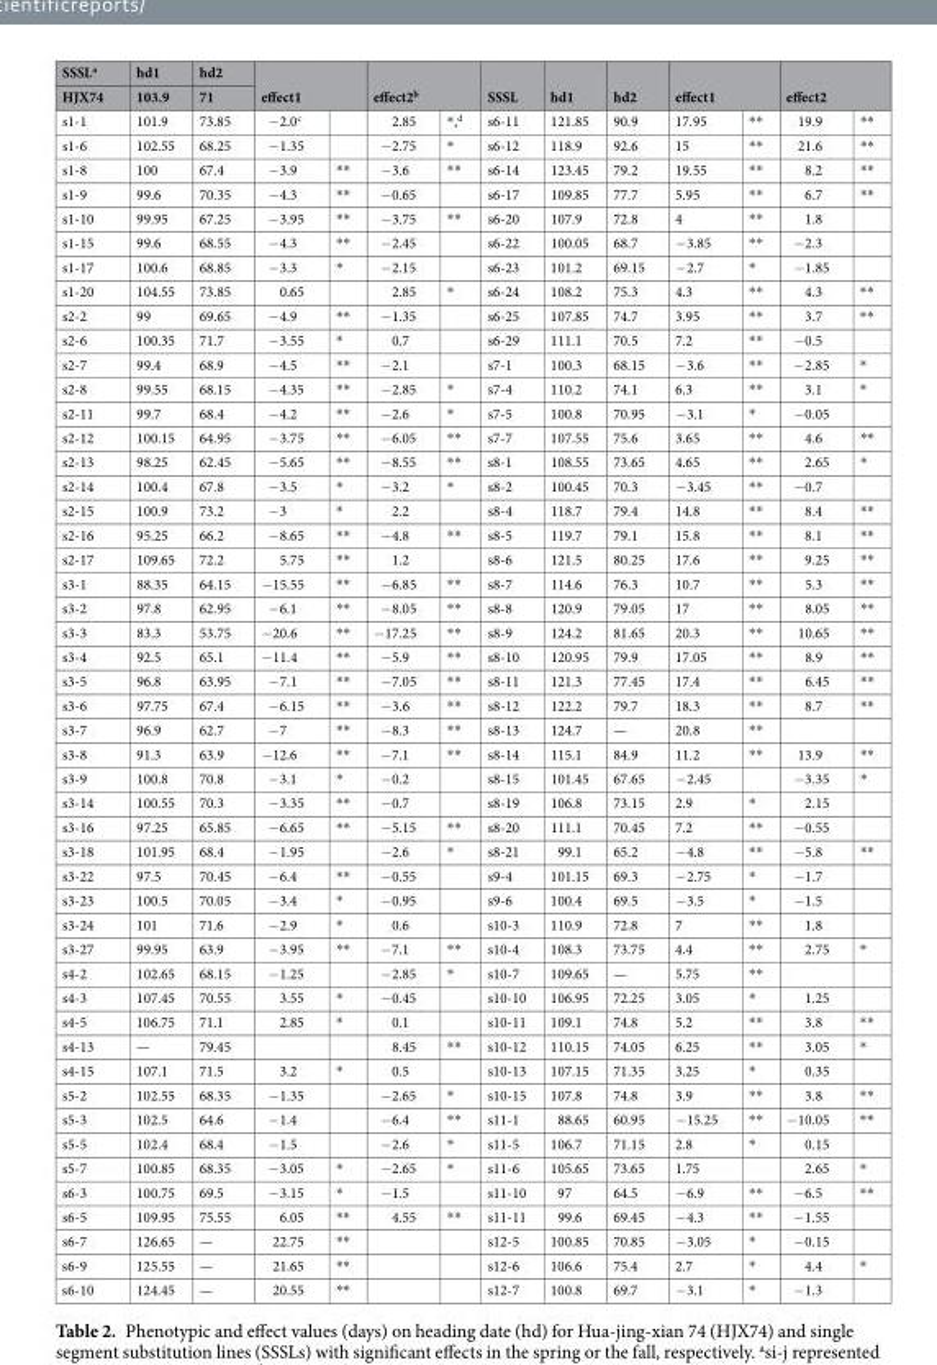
<table><thead><tr><td rowspan="3">SSSL<sup>a</sup> HJX74 s1-1</td><td rowspan="3">hd1 103.9 101.9</td><td rowspan="3">hd2 71 73.85</td><td rowspan="2" colspan="2">effect1</td><td rowspan="2" colspan="2">effect2<sup>b</sup></td><td rowspan="3">SSSL s6-11</td><td rowspan="3">hd1 121.85</td><td rowspan="3">hd2 90.9</td><td rowspan="2" colspan="2">effect1</td><td rowspan="2" colspan="2">effect2</td></tr><tr></tr><tr><td>−2.0<sup>c</sup></td><td></td><td>2.85</td><td>*,<sup>d</sup></td><td>17.95</td><td>**</td><td>19.9</td><td>**</td></tr></thead><tbody><tr><td>s1-6</td><td>102.55</td><td>68.25</td><td>−1.35</td><td></td><td>−2.75</td><td>*</td><td>s6-12</td><td>118.9</td><td>92.6</td><td>15</td><td>**</td><td>21.6</td><td>**</td></tr><tr><td>s1-8</td><td>100</td><td>67.4</td><td>−3.9</td><td>**</td><td>−3.6</td><td>**</td><td>s6-14</td><td>123.45</td><td>79.2</td><td>19.55</td><td>**</td><td>8.2</td><td>**</td></tr><tr><td>s1-9</td><td>99.6</td><td>70.35</td><td>−4.3</td><td>**</td><td>−0.65</td><td></td><td>s6-17</td><td>109.85</td><td>77.7</td><td>5.95</td><td>**</td><td>6.7</td><td>**</td></tr><tr><td>s1-10</td><td>99.95</td><td>67.25</td><td>−3.95</td><td>**</td><td>−3.75</td><td>**</td><td>s6-20</td><td>107.9</td><td>72.8</td><td>4</td><td>**</td><td>1.8</td><td></td></tr><tr><td>s1-15</td><td>99.6</td><td>68.55</td><td>−4.3</td><td>**</td><td>−2.45</td><td></td><td>s6-22</td><td>100.05</td><td>68.7</td><td>−3.85</td><td>**</td><td>−2.3</td><td></td></tr><tr><td>s1-17</td><td>100.6</td><td>68.85</td><td>−3.3</td><td>*</td><td>−2.15</td><td></td><td>s6-23</td><td>101.2</td><td>69.15</td><td>−2.7</td><td>*</td><td>−1.85</td><td></td></tr><tr><td>s1-20</td><td>104.55</td><td>73.85</td><td>0.65</td><td></td><td>2.85</td><td>*</td><td>s6-24</td><td>108.2</td><td>75.3</td><td>4.3</td><td>**</td><td>4.3</td><td>**</td></tr><tr><td>s2-2</td><td>99</td><td>69.65</td><td>−4.9</td><td>**</td><td>−1.35</td><td></td><td>s6-25</td><td>107.85</td><td>74.7</td><td>3.95</td><td>**</td><td>3.7</td><td>**</td></tr><tr><td>s2-6</td><td>100.35</td><td>71.7</td><td>−3.55</td><td>*</td><td>0.7</td><td></td><td>s6-29</td><td>111.1</td><td>70.5</td><td>7.2</td><td>**</td><td>−0.5</td><td></td></tr><tr><td>s2-7</td><td>99.4</td><td>68.9</td><td>−4.5</td><td>**</td><td>−2.1</td><td></td><td>s7-1</td><td>100.3</td><td>68.15</td><td>−3.6</td><td>**</td><td>−2.85</td><td>*</td></tr><tr><td>s2-8</td><td>99.55</td><td>68.15</td><td>−4.35</td><td>**</td><td>−2.85</td><td>*</td><td>s7-4</td><td>110.2</td><td>74.1</td><td>6.3</td><td>**</td><td>3.1</td><td>*</td></tr><tr><td>s2-11</td><td>99.7</td><td>68.4</td><td>−4.2</td><td>**</td><td>−2.6</td><td>*</td><td>s7-5</td><td>100.8</td><td>70.95</td><td>−3.1</td><td>*</td><td>−0.05</td><td></td></tr><tr><td>s2-12</td><td>100.15</td><td>64.95</td><td>−3.75</td><td>**</td><td>−6.05</td><td>**</td><td>s7-7</td><td>107.55</td><td>75.6</td><td>3.65</td><td>**</td><td>4.6</td><td>**</td></tr><tr><td>s2-13</td><td>98.25</td><td>62.45</td><td>−5.65</td><td>**</td><td>−8.55</td><td>**</td><td>s8-1</td><td>108.55</td><td>73.65</td><td>4.65</td><td>**</td><td>2.65</td><td>*</td></tr><tr><td>s2-14</td><td>100.4</td><td>67.8</td><td>−3.5</td><td>*</td><td>−3.2</td><td>*</td><td>s8-2</td><td>100.45</td><td>70.3</td><td>−3.45</td><td>**</td><td>−0.7</td><td></td></tr><tr><td>s2-15</td><td>100.9</td><td>73.2</td><td>−3</td><td>*</td><td>2.2</td><td></td><td>s8-4</td><td>118.7</td><td>79.4</td><td>14.8</td><td>**</td><td>8.4</td><td>**</td></tr><tr><td>s2-16</td><td>95.25</td><td>66.2</td><td>−8.65</td><td>**</td><td>−4.8</td><td>**</td><td>s8-5</td><td>119.7</td><td>79.1</td><td>15.8</td><td>**</td><td>8.1</td><td>**</td></tr><tr><td>s2-17</td><td>109.65</td><td>72.2</td><td>5.75</td><td>**</td><td>1.2</td><td></td><td>s8-6</td><td>121.5</td><td>80.25</td><td>17.6</td><td>**</td><td>9.25</td><td>**</td></tr><tr><td>s3-1</td><td>88.35</td><td>64.15</td><td>−15.55</td><td>**</td><td>−6.85</td><td>**</td><td>s8-7</td><td>114.6</td><td>76.3</td><td>10.7</td><td>**</td><td>5.3</td><td>**</td></tr><tr><td>s3-2</td><td>97.8</td><td>62.95</td><td>−6.1</td><td>**</td><td>−8.05</td><td>**</td><td>s8-8</td><td>120.9</td><td>79.05</td><td>17</td><td>**</td><td>8.05</td><td>**</td></tr><tr><td>s3-3</td><td>83.3</td><td>53.75</td><td>−20.6</td><td>**</td><td>−17.25</td><td>**</td><td>s8-9</td><td>124.2</td><td>81.65</td><td>20.3</td><td>**</td><td>10.65</td><td>**</td></tr><tr><td>s3-4</td><td>92.5</td><td>65.1</td><td>−11.4</td><td>**</td><td>−5.9</td><td>**</td><td>s8-10</td><td>120.95</td><td>79.9</td><td>17.05</td><td>**</td><td>8.9</td><td>**</td></tr><tr><td>s3-5</td><td>96.8</td><td>63.95</td><td>−7.1</td><td>**</td><td>−7.05</td><td>**</td><td>s8-11</td><td>121.3</td><td>77.45</td><td>17.4</td><td>**</td><td>6.45</td><td>**</td></tr><tr><td>s3-6</td><td>97.75</td><td>67.4</td><td>−6.15</td><td>**</td><td>−3.6</td><td>**</td><td>s8-12</td><td>122.2</td><td>79.7</td><td>18.3</td><td>**</td><td>8.7</td><td>**</td></tr><tr><td>s3-7</td><td>96.9</td><td>62.7</td><td>−7</td><td>**</td><td>−8.3</td><td>**</td><td>s8-13</td><td>124.7</td><td>—</td><td>20.8</td><td>**</td><td></td><td></td></tr><tr><td>s3-8</td><td>91.3</td><td>63.9</td><td>−12.6</td><td>**</td><td>−7.1</td><td>**</td><td>s8-14</td><td>115.1</td><td>84.9</td><td>11.2</td><td>**</td><td>13.9</td><td>**</td></tr><tr><td>s3-9</td><td>100.8</td><td>70.8</td><td>−3.1</td><td>*</td><td>−0.2</td><td></td><td>s8-15</td><td>101.45</td><td>67.65</td><td>−2.45</td><td></td><td>−3.35</td><td>*</td></tr><tr><td>s3-14</td><td>100.55</td><td>70.3</td><td>−3.35</td><td>**</td><td>−0.7</td><td></td><td>s8-19</td><td>106.8</td><td>73.15</td><td>2.9</td><td>*</td><td>2.15</td><td></td></tr><tr><td>s3-16</td><td>97.25</td><td>65.85</td><td>−6.65</td><td>**</td><td>−5.15</td><td>**</td><td>s8-20</td><td>111.1</td><td>70.45</td><td>7.2</td><td>**</td><td>−0.55</td><td></td></tr><tr><td>s3-18</td><td>101.95</td><td>68.4</td><td>−1.95</td><td></td><td>−2.6</td><td>*</td><td>s8-21</td><td>99.1</td><td>65.2</td><td>−4.8</td><td>**</td><td>−5.8</td><td>**</td></tr><tr><td>s3-22</td><td>97.5</td><td>70.45</td><td>−6.4</td><td>**</td><td>−0.55</td><td></td><td>s9-4</td><td>101.15</td><td>69.3</td><td>−2.75</td><td>*</td><td>−1.7</td><td></td></tr><tr><td>s3-23</td><td>100.5</td><td>70.05</td><td>−3.4</td><td>*</td><td>−0.95</td><td></td><td>s9-6</td><td>100.4</td><td>69.5</td><td>−3.5</td><td>*</td><td>−1.5</td><td></td></tr><tr><td>s3-24</td><td>101</td><td>71.6</td><td>−2.9</td><td>*</td><td>0.6</td><td></td><td>s10-3</td><td>110.9</td><td>72.8</td><td>7</td><td>**</td><td>1.8</td><td></td></tr><tr><td>s3-27</td><td>99.95</td><td>63.9</td><td>−3.95</td><td>**</td><td>−7.1</td><td>**</td><td>s10-4</td><td>108.3</td><td>73.75</td><td>4.4</td><td>**</td><td>2.75</td><td>*</td></tr><tr><td>s4-2</td><td>102.65</td><td>68.15</td><td>−1.25</td><td></td><td>−2.85</td><td>*</td><td>s10-7</td><td>109.65</td><td>—</td><td>5.75</td><td>**</td><td></td><td></td></tr><tr><td>s4-3</td><td>107.45</td><td>70.55</td><td>3.55</td><td>*</td><td>−0.45</td><td></td><td>s10-10</td><td>106.95</td><td>72.25</td><td>3.05</td><td>*</td><td>1.25</td><td></td></tr><tr><td>s4-5</td><td>106.75</td><td>71.1</td><td>2.85</td><td>*</td><td>0.1</td><td></td><td>s10-11</td><td>109.1</td><td>74.8</td><td>5.2</td><td>**</td><td>3.8</td><td>**</td></tr><tr><td>s4-13</td><td>—</td><td>79.45</td><td></td><td></td><td>8.45</td><td>**</td><td>s10-12</td><td>110.15</td><td>74.05</td><td>6.25</td><td>**</td><td>3.05</td><td>*</td></tr><tr><td>s4-15</td><td>107.1</td><td>71.5</td><td>3.2</td><td>*</td><td>0.5</td><td></td><td>s10-13</td><td>107.15</td><td>71.35</td><td>3.25</td><td>*</td><td>0.35</td><td></td></tr><tr><td>s5-2</td><td>102.55</td><td>68.35</td><td>−1.35</td><td></td><td>−2.65</td><td>*</td><td>s10-15</td><td>107.8</td><td>74.8</td><td>3.9</td><td>**</td><td>3.8</td><td>**</td></tr><tr><td>s5-3</td><td>102.5</td><td>64.6</td><td>−1.4</td><td></td><td>−6.4</td><td>**</td><td>s11-1</td><td>88.65</td><td>60.95</td><td>−15.25</td><td>**</td><td>−10.05</td><td>**</td></tr><tr><td>s5-5</td><td>102.4</td><td>68.4</td><td>−1.5</td><td></td><td>−2.6</td><td>*</td><td>s11-5</td><td>106.7</td><td>71.15</td><td>2.8</td><td>*</td><td>0.15</td><td></td></tr><tr><td>s5-7</td><td>100.85</td><td>68.35</td><td>−3.05</td><td>*</td><td>−2.65</td><td>*</td><td>s11-6</td><td>105.65</td><td>73.65</td><td>1.75</td><td></td><td>2.65</td><td>*</td></tr><tr><td>s6-3</td><td>100.75</td><td>69.5</td><td>−3.15</td><td>*</td><td>−1.5</td><td></td><td>s11-10</td><td>97</td><td>64.5</td><td>−6.9</td><td>**</td><td>−6.5</td><td>**</td></tr><tr><td>s6-5</td><td>109.95</td><td>75.55</td><td>6.05</td><td>**</td><td>4.55</td><td>**</td><td>s11-11</td><td>99.6</td><td>69.45</td><td>−4.3</td><td>**</td><td>−1.55</td><td></td></tr><tr><td>s6-7</td><td>126.65</td><td>—</td><td>22.75</td><td>**</td><td></td><td></td><td>s12-5</td><td>100.85</td><td>70.85</td><td>−3.05</td><td>*</td><td>−0.15</td><td></td></tr><tr><td>s6-9</td><td>125.55</td><td>—</td><td>21.65</td><td>**</td><td></td><td></td><td>s12-6</td><td>106.6</td><td>75.4</td><td>2.7</td><td>*</td><td>4.4</td><td>*</td></tr><tr><td>s6-10</td><td>124.45</td><td>—</td><td>20.55</td><td>**</td><td></td><td></td><td>s12-7</td><td>100.8</td><td>69.7</td><td>−3.1</td><td>*</td><td>−1.3</td><td></td></tr></tbody></table>